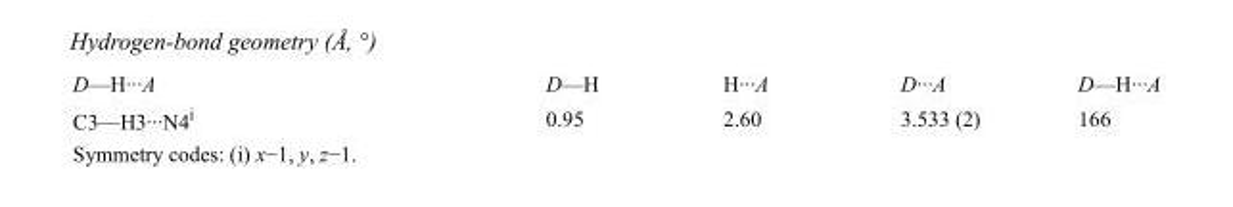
<table><tbody><tr><td>D—H···A</td><td>D—H</td><td>H···A</td><td>D···A</td><td>D—H···A</td></tr><tr><td>C3—H3···N4<sup>i</sup></td><td>0.95</td><td>2.60</td><td>3.533 (2)</td><td>166</td></tr></tbody></table>